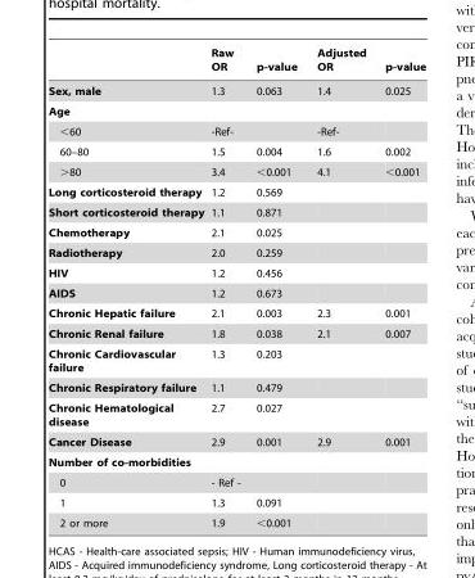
<table><thead><tr><td></td><td>Raw OR</td><td>p-value</td><td>Adjusted OR</td><td>p-value</td></tr></thead><tbody><tr><td>Sex, male</td><td>1.3</td><td>0.063</td><td>1.4</td><td>0.025</td></tr><tr><td colspan="5">Age</td></tr><tr><td>&lt;60</td><td>-Ref-</td><td></td><td>-Ref-</td><td></td></tr><tr><td>60–80</td><td>1.5</td><td>0.004</td><td>1.6</td><td>0.002</td></tr><tr><td>&gt;80</td><td>3.4</td><td>&lt;0.001</td><td>4.1</td><td>&lt;0.001</td></tr><tr><td>Long corticosteroid therapy</td><td>1.2</td><td>0.569</td><td></td><td></td></tr><tr><td>Short corticosteroid therapy</td><td>1.1</td><td>0.871</td><td></td><td></td></tr><tr><td>Chemotherapy</td><td>2.1</td><td>0.025</td><td></td><td></td></tr><tr><td>Radiotherapy</td><td>2.0</td><td>0.259</td><td></td><td></td></tr><tr><td>HIV</td><td>1.2</td><td>0.456</td><td></td><td></td></tr><tr><td>AIDS</td><td>1.2</td><td>0.673</td><td></td><td></td></tr><tr><td>Chronic Hepatic failure</td><td>2.1</td><td>0.003</td><td>2.3</td><td>0.001</td></tr><tr><td>Chronic Renal failure</td><td>1.8</td><td>0.038</td><td>2.1</td><td>0.007</td></tr><tr><td>Chronic Cardiovascular failure</td><td>1.3</td><td>0.203</td><td></td><td></td></tr><tr><td>Chronic Respiratory failure</td><td>1.1</td><td>0.479</td><td></td><td></td></tr><tr><td>Chronic Hematological disease</td><td>2.7</td><td>0.027</td><td></td><td></td></tr><tr><td>Cancer Disease</td><td>2.9</td><td>0.001</td><td>2.9</td><td>0.001</td></tr><tr><td colspan="5">Number of co-morbidities</td></tr><tr><td>0</td><td>- Ref -</td><td></td><td></td><td></td></tr><tr><td>1</td><td>1.3</td><td>0.091</td><td></td><td></td></tr><tr><td>2 or more</td><td>1.9</td><td>&lt;0.001</td><td></td><td></td></tr></tbody></table>